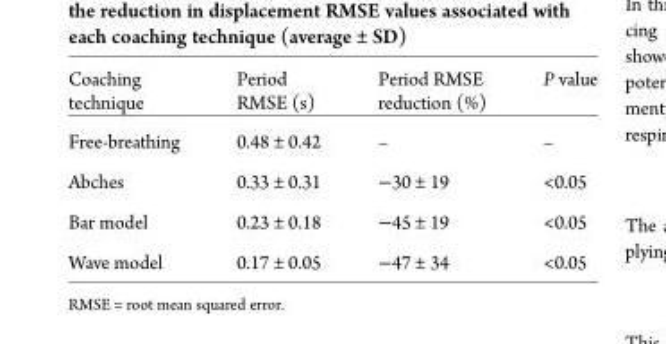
<table><thead><tr><td>Coaching technique</td><td>Period RMSE (s)</td><td>Period RMSE reduction (%)</td><td>P value</td></tr></thead><tbody><tr><td>Free-breathing</td><td>0.48 ± 0.42</td><td>–</td><td>–</td></tr><tr><td>Abches</td><td>0.33 ± 0.31</td><td>−30 ± 19</td><td>&lt;0.05</td></tr><tr><td>Bar model</td><td>0.23 ± 0.18</td><td>−45 ± 19</td><td>&lt;0.05</td></tr><tr><td>Wave model</td><td>0.17 ± 0.05</td><td>−47 ± 34</td><td>&lt;0.05</td></tr></tbody></table>